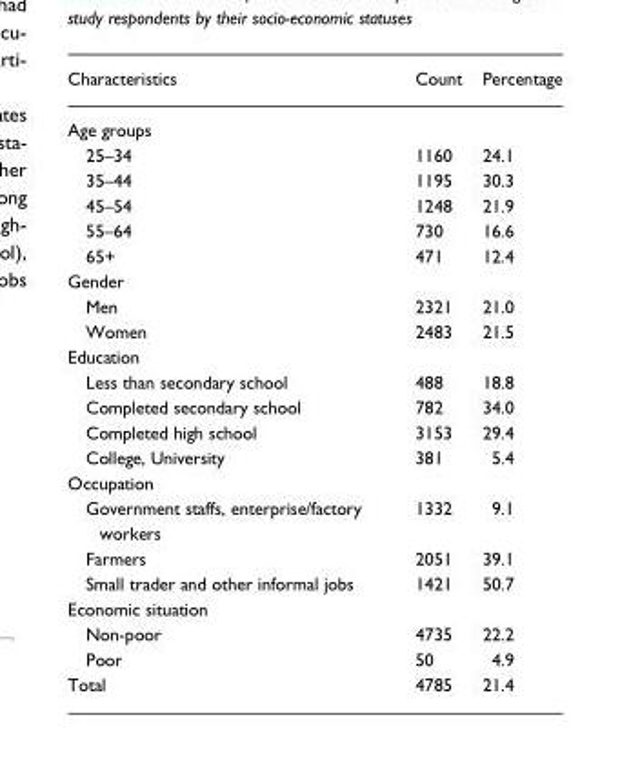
<table><thead><tr><td>Characteristics</td><td>Count</td><td>Percentage</td></tr></thead><tbody><tr><td colspan="3">Age groups</td></tr><tr><td>25–34</td><td>1160</td><td>24.1</td></tr><tr><td>35–44</td><td>1195</td><td>30.3</td></tr><tr><td>45–54</td><td>1248</td><td>21.9</td></tr><tr><td>55–64</td><td>730</td><td>16.6</td></tr><tr><td>65+</td><td>471</td><td>12.4</td></tr><tr><td colspan="3">Gender</td></tr><tr><td>Men</td><td>2321</td><td>21.0</td></tr><tr><td>Women</td><td>2483</td><td>21.5</td></tr><tr><td colspan="3">Education</td></tr><tr><td>Less than secondary school</td><td>488</td><td>18.8</td></tr><tr><td>Completed secondary school</td><td>782</td><td>34.0</td></tr><tr><td>Completed high school</td><td>3153</td><td>29.4</td></tr><tr><td>College, University</td><td>381</td><td>5.4</td></tr><tr><td colspan="3">Occupation</td></tr><tr><td>Government staffs, enterprise/factory workers</td><td>1332</td><td>9.1</td></tr><tr><td>Farmers</td><td>2051</td><td>39.1</td></tr><tr><td>Small trader and other informal jobs</td><td>1421</td><td>50.7</td></tr><tr><td colspan="3">Economic situation</td></tr><tr><td>Non-poor</td><td>4735</td><td>22.2</td></tr><tr><td>Poor</td><td>50</td><td>4.9</td></tr><tr><td>Total</td><td>4785</td><td>21.4</td></tr></tbody></table>